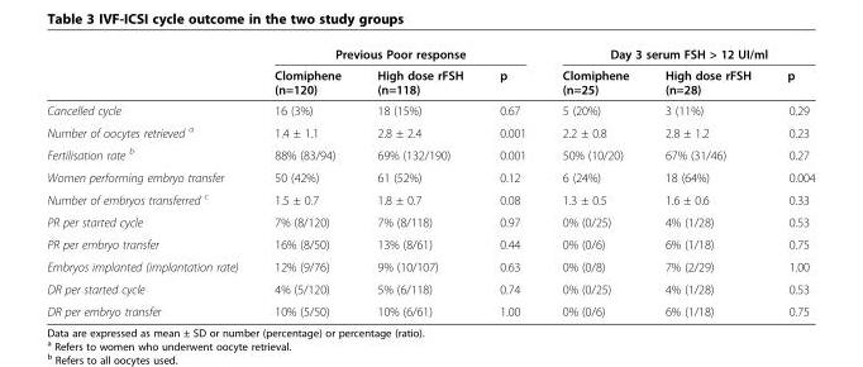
<table><thead><tr><td rowspan="2"></td><td colspan="3">Previous Poor response</td><td colspan="3">Day 3 serum FSH &gt; 12 UI/ml</td></tr><tr><td>Clomiphene (n=120)</td><td>High dose rFSH (n=118)</td><td>p</td><td>Clomiphene (n=25)</td><td>High dose rFSH (n=28)</td><td>p</td></tr></thead><tbody><tr><td>Cancelled cycle</td><td>16 (3%)</td><td>18 (15%)</td><td>0.67</td><td>5 (20%)</td><td>3 (11%)</td><td>0.29</td></tr><tr><td>Number of oocytes retrieved <sup>a</sup></td><td>1.4 ± 1.1</td><td>2.8 ± 2.4</td><td>0.001</td><td>2.2 ± 0.8</td><td>2.8 ± 1.2</td><td>0.23</td></tr><tr><td>Fertilisation rate <sup>b</sup></td><td>88% (83/94)</td><td>69% (132/190)</td><td>0.001</td><td>50% (10/20)</td><td>67% (31/46)</td><td>0.27</td></tr><tr><td>Women performing embryo transfer</td><td>50 (42%)</td><td>61 (52%)</td><td>0.12</td><td>6 (24%)</td><td>18 (64%)</td><td>0.004</td></tr><tr><td>Number of embryos transferred <sup>c</sup></td><td>1.5 ± 0.7</td><td>1.8 ± 0.7</td><td>0.08</td><td>1.3 ± 0.5</td><td>1.6 ± 0.6</td><td>0.33</td></tr><tr><td>PR per started cycle</td><td>7% (8/120)</td><td>7% (8/118)</td><td>0.97</td><td>0% (0/25)</td><td>4% (1/28)</td><td>0.53</td></tr><tr><td>PR per embryo transfer</td><td>16% (8/50)</td><td>13% (8/61)</td><td>0.44</td><td>0% (0/6)</td><td>6% (1/18)</td><td>0.75</td></tr><tr><td>Embryos implanted (implantation rate)</td><td>12% (9/76)</td><td>9% (10/107)</td><td>0.63</td><td>0% (0/8)</td><td>7% (2/29)</td><td>1.00</td></tr><tr><td>DR per started cycle</td><td>4% (5/120)</td><td>5% (6/118)</td><td>0.74</td><td>0% (0/25)</td><td>4% (1/28)</td><td>0.53</td></tr><tr><td>DR per embryo transfer</td><td>10% (5/50)</td><td>10% (6/61)</td><td>1.00</td><td>0% (0/6)</td><td>6% (1/18)</td><td>0.75</td></tr></tbody></table>